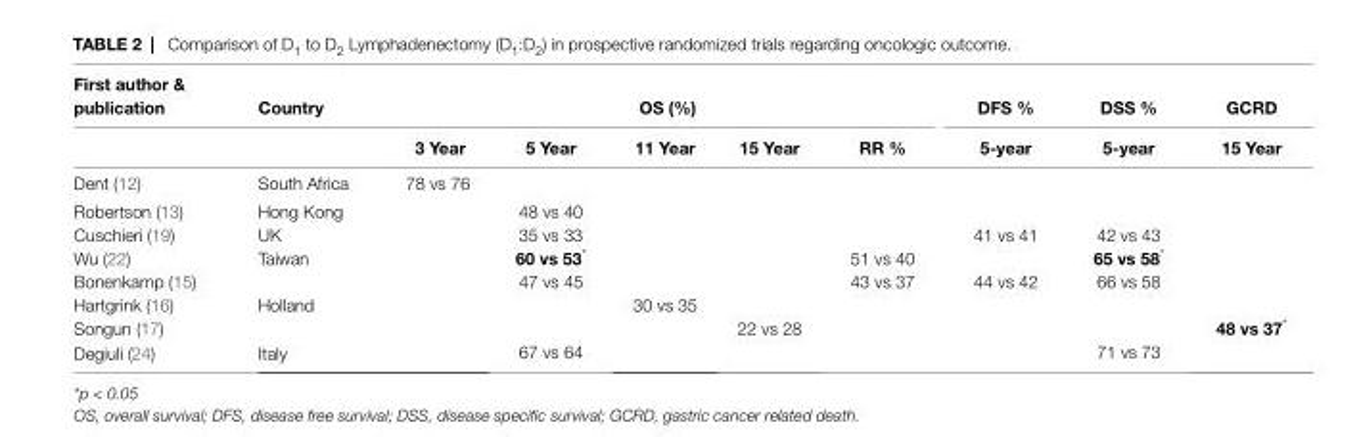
<table><thead><tr><td rowspan="2">First author &amp; publication</td><td rowspan="2">Country</td><td colspan="5">oS (%)</td><td rowspan="2">DFS % 5-year</td><td rowspan="2">DSS % 5-year</td><td rowspan="2">GCRD 15 year</td></tr><tr><td>3 year</td><td>5 year</td><td>11 year</td><td>15 year</td><td>RR %</td></tr></thead><tbody><tr><td>Dent (12)</td><td>South Africa</td><td>78 vs 76</td><td></td><td></td><td></td><td></td><td></td><td></td><td></td></tr><tr><td>Robertson (13)</td><td>Hong Kong</td><td></td><td>48 vs 40</td><td></td><td></td><td></td><td></td><td></td><td></td></tr><tr><td>Cuschieri (19)</td><td>UK</td><td></td><td>35 vs 33</td><td></td><td></td><td></td><td>41 vs 41</td><td>42 vs 43</td><td></td></tr><tr><td>Wu (22)</td><td>Taiwan</td><td></td><td>60 vs 53*</td><td></td><td></td><td>51 vs 40</td><td></td><td>65 vs 58*</td><td></td></tr><tr><td>Bonenkamp (15) Hartgrink (16) Songun (17)</td><td>Holland</td><td></td><td>47 vs 45</td><td>30 vs 35</td><td>22 vs 28</td><td>43 vs 37</td><td>44 vs 42</td><td>66 vs 58</td><td>48 vs 37*</td></tr><tr><td>Degiuli (24)</td><td>Italy</td><td></td><td>67 vs 64</td><td></td><td></td><td></td><td></td><td>71 vs 73</td><td></td></tr></tbody></table>